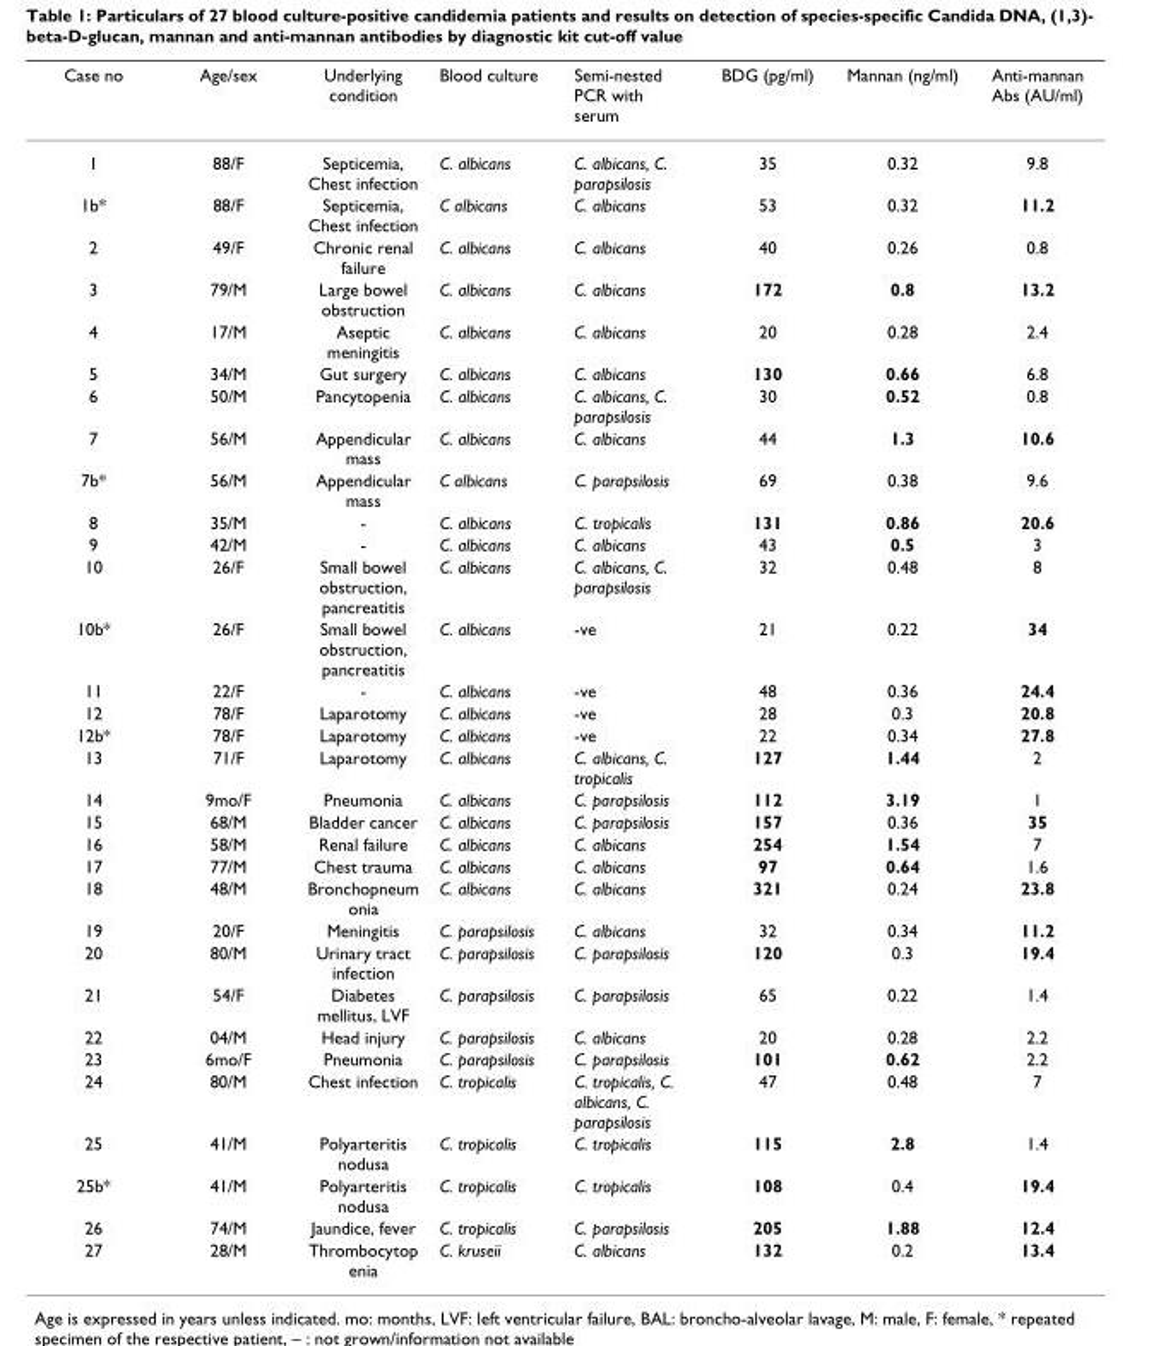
<table><thead><tr><td>Case no</td><td>Age/sex</td><td>Underlying condition</td><td>Blood culture</td><td>Semi-nested PCR with serum</td><td>BDG (pg/ml)</td><td>Mannan (ng/ml)</td><td>Anti-mannan Abs (AU/ml)</td></tr></thead><tbody><tr><td>1</td><td>88/F</td><td>Septicemia, Chest infection</td><td>C. albicans</td><td>C. albicans, C. parapsilosis</td><td>35</td><td>0.32</td><td>9.8</td></tr><tr><td>1b*</td><td>88/F</td><td>Septicemia, Chest infection</td><td>C albicans</td><td>C. albicans</td><td>53</td><td>0.32</td><td>11.2</td></tr><tr><td>2</td><td>49/F</td><td>Chronic renal failure</td><td>C. albicans</td><td>C. albicans</td><td>40</td><td>0.26</td><td>0.8</td></tr><tr><td>3</td><td>79/M</td><td>Large bowel obstruction</td><td>C. albicans</td><td>C. albicans</td><td>172</td><td>0.8</td><td>13.2</td></tr><tr><td>4</td><td>17/M</td><td>Aseptic meningitis</td><td>C. albicans</td><td>C. albicans</td><td>20</td><td>0.28</td><td>2.4</td></tr><tr><td>5</td><td>34/M</td><td>Gut surgery</td><td>C. albicans</td><td>C. albicans</td><td>130</td><td>0.66</td><td>6.8</td></tr><tr><td>6</td><td>50/M</td><td>Pancytopenia</td><td>C. albicans</td><td>C. albicans, C. parapsilosis</td><td>30</td><td>0.52</td><td>0.8</td></tr><tr><td>7</td><td>56/M</td><td>Appendicular mass</td><td>C. albicans</td><td>C. albicans</td><td>44</td><td>1.3</td><td>10.6</td></tr><tr><td>7b*</td><td>56/M</td><td>Appendicular mass</td><td>C albicans</td><td>C. parapsilosis</td><td>69</td><td>0.38</td><td>9.6</td></tr><tr><td>8</td><td>35/M</td><td>-</td><td>C. albicans</td><td>C. tropicalis</td><td>131</td><td>0.86</td><td>20.6</td></tr><tr><td>9</td><td>42/M</td><td>-</td><td>C. albicans</td><td>C. albicans</td><td>43</td><td>0.5</td><td>3</td></tr><tr><td>10</td><td>26/F</td><td>Small bowel obstruction, pancreatitis</td><td>C. albicans</td><td>C. albicans, C. parapsilosis</td><td>32</td><td>0.48</td><td>8</td></tr><tr><td>10b*</td><td>26/F</td><td>Small bowel obstruction, pancreatitis</td><td>C. albicans</td><td>-ve</td><td>21</td><td>0.22</td><td>34</td></tr><tr><td>11</td><td>22/F</td><td>-</td><td>C. albicans</td><td>-ve</td><td>48</td><td>0.36</td><td>24.4</td></tr><tr><td>12</td><td>78/F</td><td>Laparotomy</td><td>C. albicans</td><td>-ve</td><td>28</td><td>0.3</td><td>20.8</td></tr><tr><td>12b*</td><td>78/F</td><td>Laparotomy</td><td>C. albicans</td><td>-ve</td><td>22</td><td>0.34</td><td>27.8</td></tr><tr><td>13</td><td>71/F</td><td>Laparotomy</td><td>C. albicans</td><td>C. albicans, C. tropicalis</td><td>127</td><td>1.44</td><td>2</td></tr><tr><td>14</td><td>9mo/F</td><td>Pneumonia</td><td>C. albicans</td><td>C. parapsilosis</td><td>112</td><td>3.19</td><td>1</td></tr><tr><td>15</td><td>68/M</td><td>Bladder cancer</td><td>C. albicans</td><td>C. parapsilosis</td><td>157</td><td>0.36</td><td>35</td></tr><tr><td>16</td><td>58/M</td><td>Renal failure</td><td>C. albicans</td><td>C. albicans</td><td>254</td><td>1.54</td><td>7</td></tr><tr><td>17</td><td>77/M</td><td>Chest trauma</td><td>C. albicans</td><td>C. albicans</td><td>97</td><td>0.64</td><td>1.6</td></tr><tr><td>18</td><td>48/M</td><td>Bronchopneum onia</td><td>C. albicans</td><td>C. albicans</td><td>321</td><td>0.24</td><td>23.8</td></tr><tr><td>19</td><td>20/F</td><td>Meningitis</td><td>C. parapsilosis</td><td>C. albicans</td><td>32</td><td>0.34</td><td>11.2</td></tr><tr><td>20</td><td>80/M</td><td>Urinary tract infection</td><td>C. parapsilosis</td><td>C. parapsilosis</td><td>120</td><td>0.3</td><td>19.4</td></tr><tr><td>21</td><td>54/F</td><td>Diabetes mellitus, LVF</td><td>C. parapsilosis</td><td>C. parapsilosis</td><td>65</td><td>0.22</td><td>1.4</td></tr><tr><td>22</td><td>04/M</td><td>Head injury</td><td>C. parapsilosis</td><td>C. albicans</td><td>20</td><td>0.28</td><td>2.2</td></tr><tr><td>23</td><td>6mo/F</td><td>Pneumonia</td><td>C. parapsilosis</td><td>C. parapsilosis</td><td>101</td><td>0.62</td><td>2.2</td></tr><tr><td>24</td><td>80/M</td><td>Chest infection</td><td>C. tropicalis</td><td>C. tropicalis, C. albicans, C. parapsilosis</td><td>47</td><td>0.48</td><td>7</td></tr><tr><td>25</td><td>41/M</td><td>Polyarteritis nodusa</td><td>C. tropicalis</td><td>C. tropicalis</td><td>115</td><td>2.8</td><td>1.4</td></tr><tr><td>25b*</td><td>41/M</td><td>Polyarteritis nodusa</td><td>C. tropicalis</td><td>C. tropicalis</td><td>108</td><td>0.4</td><td>19.4</td></tr><tr><td>26</td><td>74/M</td><td>Jaundice, fever</td><td>C. tropicalis</td><td>C. parapsilosis</td><td>205</td><td>1.88</td><td>12.4</td></tr><tr><td>27</td><td>28/M</td><td>Thrombocytop enia</td><td>C. kruseii</td><td>C. albicans</td><td>132</td><td>0.2</td><td>13.4</td></tr></tbody></table>